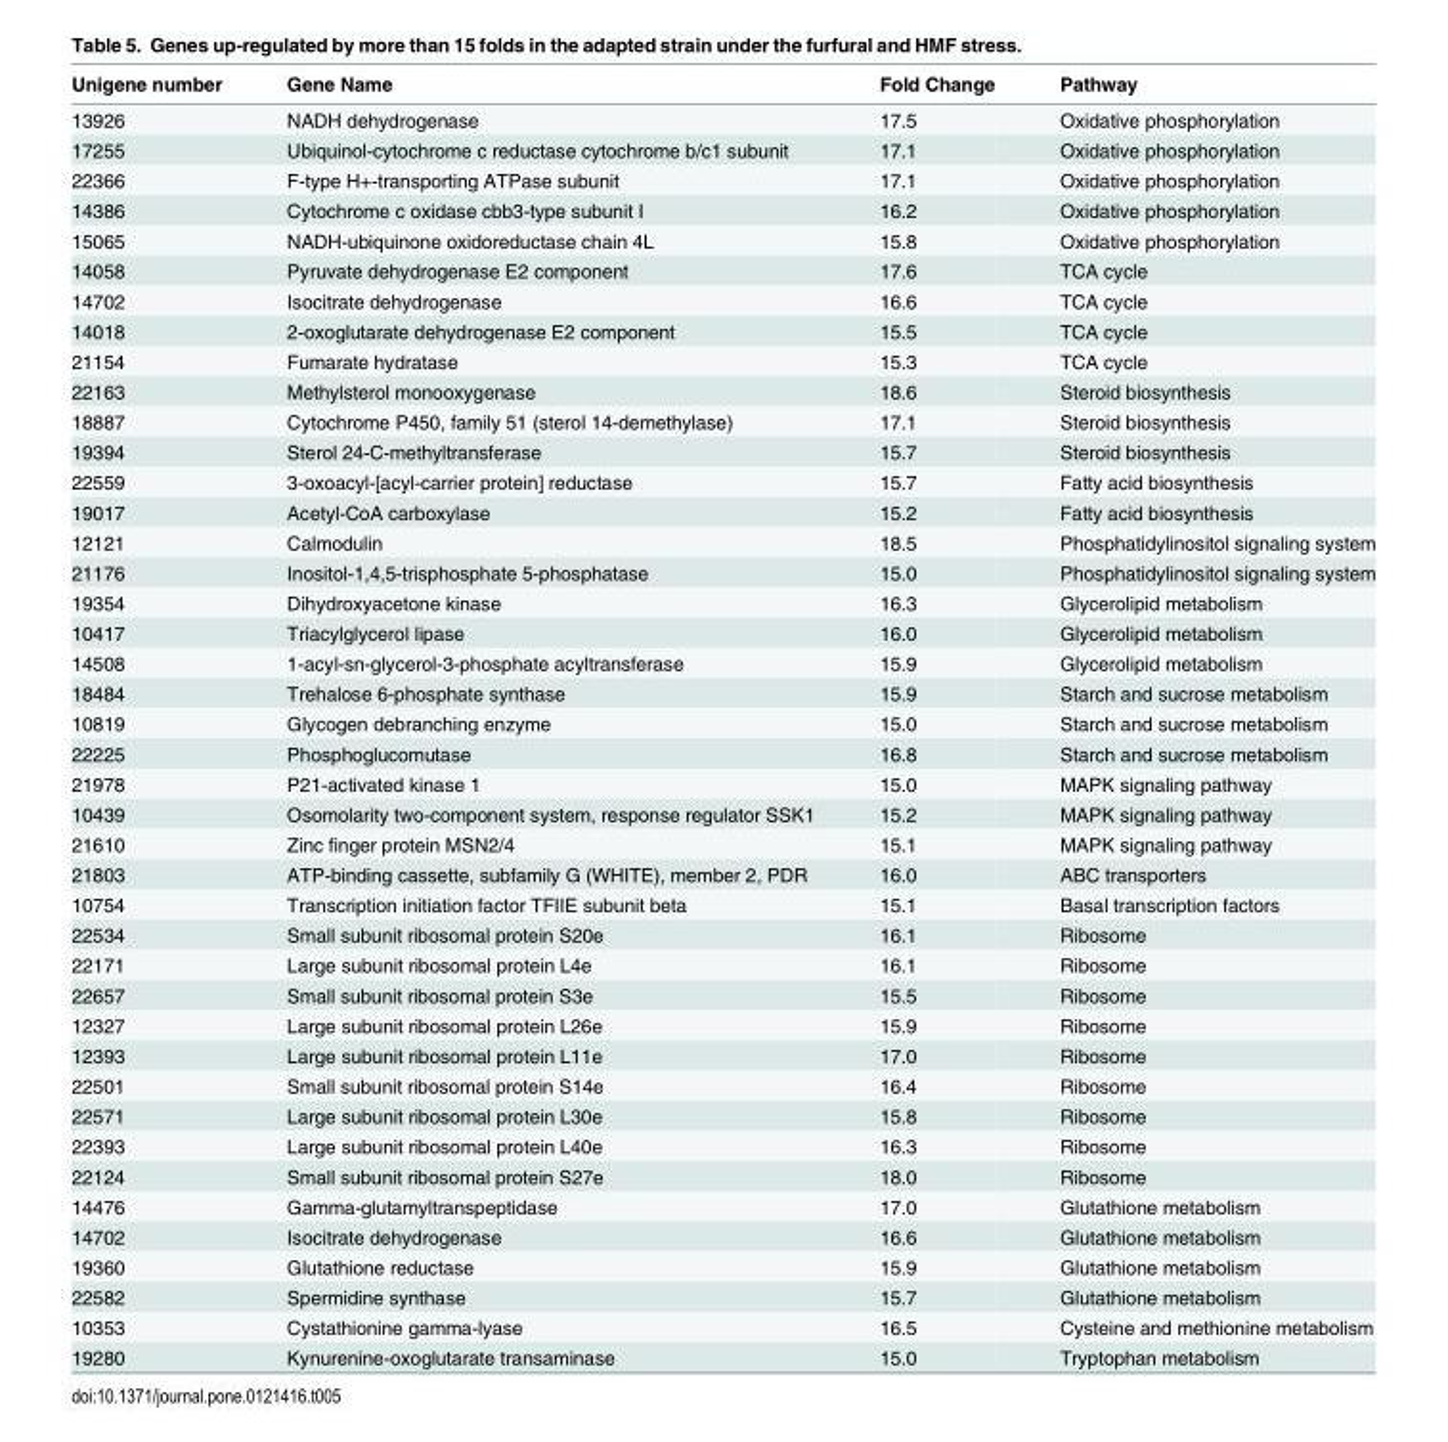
<table><thead><tr><td>Unigene number</td><td>Gene Name</td><td>Fold Change</td><td>Pathway</td></tr></thead><tbody><tr><td>13926</td><td>NADH dehydrogenase</td><td>17.5</td><td>Oxidative phosphorylation</td></tr><tr><td>17255</td><td>Ubiquinol-cytochrome c reductase cytochrome b/c1 subunit</td><td>17.1</td><td>Oxidative phosphorylation</td></tr><tr><td>22366</td><td>F-type H+-transporting ATPase subunit</td><td>17.1</td><td>Oxidative phosphorylation</td></tr><tr><td>14386</td><td>Cytochrome c oxidase cbb3-type subunit I</td><td>16.2</td><td>Oxidative phosphorylation</td></tr><tr><td>15065</td><td>NADH-ubiquinone oxidoreductase chain 4L</td><td>15.8</td><td>Oxidative phosphorylation</td></tr><tr><td>14058</td><td>Pyruvate dehydrogenase E2 component</td><td>17.6</td><td>TCA cycle</td></tr><tr><td>14702</td><td>Isocitrate dehydrogenase</td><td>16.6</td><td>TCA cycle</td></tr><tr><td>14018</td><td>2-oxoglutarate dehydrogenase E2 component</td><td>15.5</td><td>TCA cycle</td></tr><tr><td>21154</td><td>Fumarate hydratase</td><td>15.3</td><td>TCA cycle</td></tr><tr><td>22163</td><td>Methylsterol monooxygenase</td><td>18.6</td><td>Steroid biosynthesis</td></tr><tr><td>18887</td><td>Cytochrome P450, family 51 (sterol 14-demethylase)</td><td>17.1</td><td>Steroid biosynthesis</td></tr><tr><td>19394</td><td>Sterol 24-C-methyltransferase</td><td>15.7</td><td>Steroid biosynthesis</td></tr><tr><td>22559</td><td>3-oxoacyl-[acyl-carrier protein] reductase</td><td>15.7</td><td>Fatty acid biosynthesis</td></tr><tr><td>19017</td><td>Acetyl-CoA carboxylase</td><td>15.2</td><td>Fatty acid biosynthesis</td></tr><tr><td>12121</td><td>Calmodulin</td><td>18.5</td><td>Phosphatidylinositol signaling system</td></tr><tr><td>21176</td><td>Inositol-1,4,5-trisphosphate 5-phosphatase</td><td>15.0</td><td>Phosphatidylinositol signaling system</td></tr><tr><td>19354</td><td>Dihydroxyacetone kinase</td><td>16.3</td><td>Glycerolipid metabolism</td></tr><tr><td>10417</td><td>Triacylglycerol lipase</td><td>16.0</td><td>Glycerolipid metabolism</td></tr><tr><td>14508</td><td>1-acyl-sn-glycerol-3-phosphate acyltransferase</td><td>15.9</td><td>Glycerolipid metabolism</td></tr><tr><td>18484</td><td>Trehalose 6-phosphate synthase</td><td>15.9</td><td>Starch and sucrose metabolism</td></tr><tr><td>10819</td><td>Glycogen debranching enzyme</td><td>15.0</td><td>Starch and sucrose metabolism</td></tr><tr><td>22225</td><td>Phosphoglucomutase</td><td>16.8</td><td>Starch and sucrose metabolism</td></tr><tr><td>21978</td><td>P21-activated kinase 1</td><td>15.0</td><td>MAPK signaling pathway</td></tr><tr><td>10439</td><td>Osomolarity two-component system, response regulator SSK1</td><td>15.2</td><td>MAPK signaling pathway</td></tr><tr><td>21610</td><td>Zinc finger protein MSN2/4</td><td>15.1</td><td>MAPK signaling pathway</td></tr><tr><td>21803</td><td>ATP-binding cassette, subfamily G (WHITE), member 2, PDR</td><td>16.0</td><td>ABC transporters</td></tr><tr><td>10754</td><td>Transcription initiation factor TFIIE subunit beta</td><td>15.1</td><td>Basal transcription factors</td></tr><tr><td>22534</td><td>Small subunit ribosomal protein S20e</td><td>16.1</td><td>Ribosome</td></tr><tr><td>22171</td><td>Large subunit ribosomal protein L4e</td><td>16.1</td><td>Ribosome</td></tr><tr><td>22657</td><td>Small subunit ribosomal protein S3e</td><td>15.5</td><td>Ribosome</td></tr><tr><td>12327</td><td>Large subunit ribosomal protein L26e</td><td>15.9</td><td>Ribosome</td></tr><tr><td>12393</td><td>Large subunit ribosomal protein L11e</td><td>17.0</td><td>Ribosome</td></tr><tr><td>22501</td><td>Small subunit ribosomal protein S14e</td><td>16.4</td><td>Ribosome</td></tr><tr><td>22571</td><td>Large subunit ribosomal protein L30e</td><td>15.8</td><td>Ribosome</td></tr><tr><td>22393</td><td>Large subunit ribosomal protein L40e</td><td>16.3</td><td>Ribosome</td></tr><tr><td>22124</td><td>Small subunit ribosomal protein S27e</td><td>18.0</td><td>Ribosome</td></tr><tr><td>14476</td><td>Gamma-glutamyltranspeptidase</td><td>17.0</td><td>Glutathione metabolism</td></tr><tr><td>14702</td><td>Isocitrate dehydrogenase</td><td>16.6</td><td>Glutathione metabolism</td></tr><tr><td>19360</td><td>Glutathione reductase</td><td>15.9</td><td>Glutathione metabolism</td></tr><tr><td>22582</td><td>Spermidine synthase</td><td>15.7</td><td>Glutathione metabolism</td></tr><tr><td>10353</td><td>Cystathionine gamma-lyase</td><td>16.5</td><td>Cysteine and methionine metabolism</td></tr><tr><td>19280</td><td>Kynurenine-oxoglutarate transaminase</td><td>15.0</td><td>Tryptophan metabolism</td></tr></tbody></table>